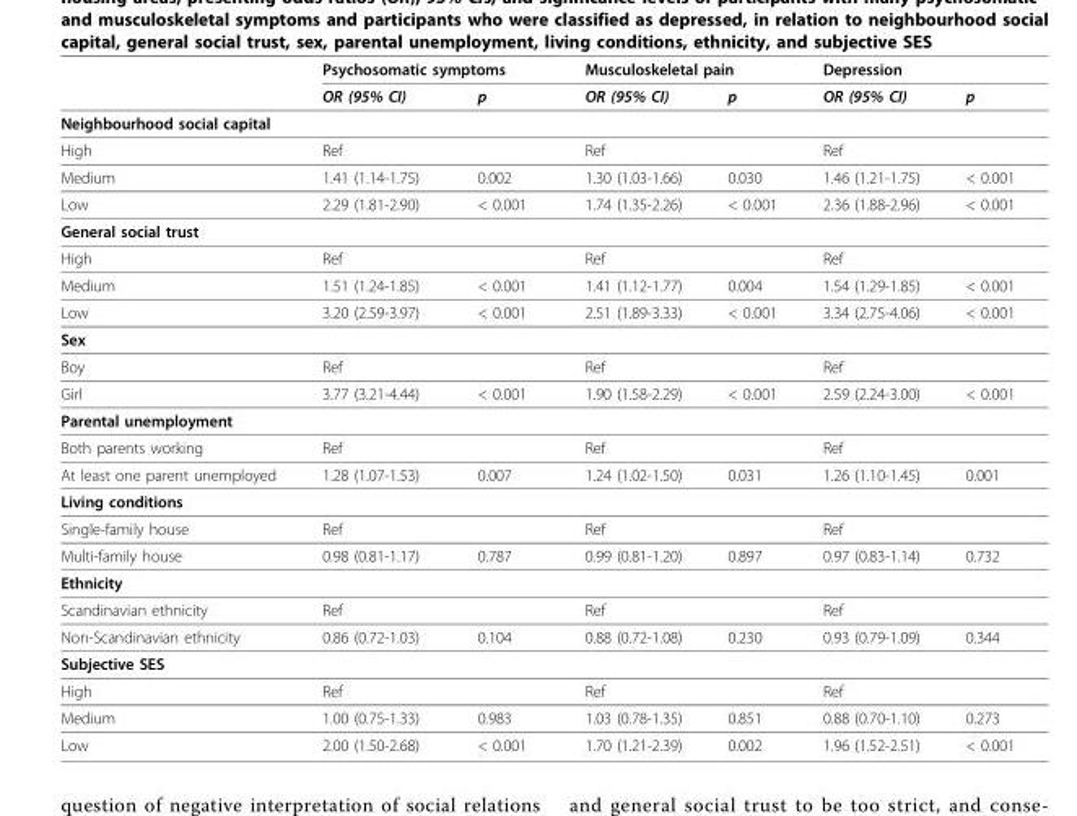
<table><thead><tr><td rowspan="2"></td><td colspan="2">Psychosomatic symptoms</td><td colspan="2">Musculoskeletal pain</td><td colspan="2">Depression</td></tr><tr><td>OR (95% CI)</td><td>p</td><td>OR (95% CI)</td><td>p</td><td>OR (95% CI)</td><td>p</td></tr></thead><tbody><tr><td colspan="7">Neighbourhood social capital</td></tr><tr><td>High</td><td>Ref</td><td></td><td>Ref</td><td></td><td>Ref</td><td></td></tr><tr><td>Medium</td><td>1.41 (1.14-1.75)</td><td>0.002</td><td>1.30 (1.03-1.66)</td><td>0.030</td><td>1.46 (1.21-1.75)</td><td>&lt; 0.001</td></tr><tr><td>Low</td><td>2.29 (1.81-2.90)</td><td>&lt; 0.001</td><td>1.74 (1.35-2.26)</td><td>&lt; 0.001</td><td>2.36 (1.88-2.96)</td><td>&lt; 0.001</td></tr><tr><td colspan="7">General social trust</td></tr><tr><td>High</td><td>Ref</td><td></td><td>Ref</td><td></td><td>Ref</td><td></td></tr><tr><td>Medium</td><td>1.51 (1.24-1.85)</td><td>&lt; 0.001</td><td>1.41 (1.12-1.77)</td><td>0.004</td><td>1.54 (1.29-1.85)</td><td>&lt; 0.001</td></tr><tr><td>Low</td><td>3.20 (2.59-3.97)</td><td>&lt; 0.001</td><td>2.51 (1.89-3.33)</td><td>&lt; 0.001</td><td>3.34 (2.75-4.06)</td><td>&lt; 0.001</td></tr><tr><td colspan="7">Sex</td></tr><tr><td>Boy</td><td>Ref</td><td></td><td>Ref</td><td></td><td>Ref</td><td></td></tr><tr><td>Girl</td><td>3.77 (3.21-4.44)</td><td>&lt; 0.001</td><td>1.90 (1.58-2.29)</td><td>&lt; 0.001</td><td>2.59 (2.24-3.00)</td><td>&lt; 0.001</td></tr><tr><td colspan="7">Parental unemployment</td></tr><tr><td>Both parents working</td><td>Ref</td><td></td><td>Ref</td><td></td><td>Ref</td><td></td></tr><tr><td>At least one parent unemployed</td><td>1.28 (1.07-1.53)</td><td>0.007</td><td>1.24 (1.02-1.50)</td><td>0.031</td><td>1.26 (1.10-1.45)</td><td>0.001</td></tr><tr><td colspan="7">Living conditions</td></tr><tr><td>Single-family house</td><td>Ref</td><td></td><td>Ref</td><td></td><td>Ref</td><td></td></tr><tr><td>Multi-family house</td><td>0.98 (0.81-1.17)</td><td>0.787</td><td>0.99 (0.81-1.20)</td><td>0.897</td><td>0.97 (0.83-1.14)</td><td>0.732</td></tr><tr><td colspan="7">Ethnicity</td></tr><tr><td>Scandinavian ethnicity</td><td>Ref</td><td></td><td>Ref</td><td></td><td>Ref</td><td></td></tr><tr><td>Non-Scandinavian ethnicity</td><td>0.86 (0.72-1.03)</td><td>0.104</td><td>0.88 (0.72-1.08)</td><td>0.230</td><td>0.93 (0.79-1.09)</td><td>0.344</td></tr><tr><td colspan="7">Subjective SES</td></tr><tr><td>High</td><td>Ref</td><td></td><td>Ref</td><td></td><td>Ref</td><td></td></tr><tr><td>Medium</td><td>1.00 (0.75-1.33)</td><td>0.983</td><td>1.03 (0.78-1.35)</td><td>0.851</td><td>0.88 (0.70-1.10)</td><td>0.273</td></tr><tr><td>Low</td><td>2.00 (1.50-2.68)</td><td>&lt; 0.001</td><td>1.70 (1.21-2.39)</td><td>0.002</td><td>1.96 (1.52-2.51)</td><td>&lt; 0.001</td></tr></tbody></table>